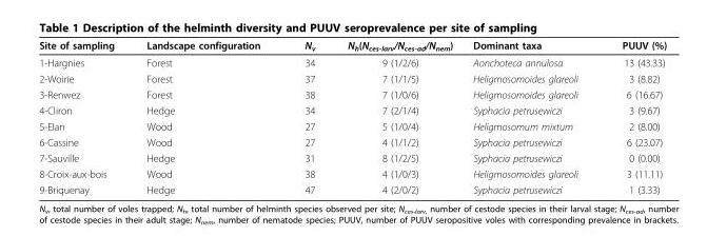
<table><thead><tr><td>Site of sampling</td><td>Landscape configuration</td><td>N<sub>v</sub></td><td>N<sub>h</sub>(N<sub>ces-larv</sub>/N<sub>ces-ad</sub>/N<sub>nem</sub>)</td><td>Dominant taxa</td><td>PUUV (%)</td></tr></thead><tbody><tr><td>1-Hargnies</td><td>Forest</td><td>34</td><td>9 (1/2/6)</td><td>Aonchoteca annulosa</td><td>13 (43.33)</td></tr><tr><td>2-Woirie</td><td>Forest</td><td>37</td><td>7 (1/1/5)</td><td>Heligmosomoides glareoli</td><td>3 (8.82)</td></tr><tr><td>3-Renwez</td><td>Forest</td><td>38</td><td>7 (1/0/6)</td><td>Heligmosomoides glareoli</td><td>6 (16.67)</td></tr><tr><td>4-Cliron</td><td>Hedge</td><td>34</td><td>7 (2/1/4)</td><td>Syphacia petrusewiczi</td><td>3 (9.67)</td></tr><tr><td>5-Elan</td><td>Wood</td><td>27</td><td>5 (1/0/4)</td><td>Heligmosomum mixtum</td><td>2 (8.00)</td></tr><tr><td>6-Cassine</td><td>Wood</td><td>27</td><td>4 (1/1/2)</td><td>Syphacia petrusewiczi</td><td>6 (23.07)</td></tr><tr><td>7-Sauville</td><td>Hedge</td><td>31</td><td>8 (1/2/5)</td><td>Syphacia petrusewiczi</td><td>0 (0.00)</td></tr><tr><td>8-Croix-aux-bois</td><td>Wood</td><td>38</td><td>4 (1/0/3)</td><td>Heligmosomoides glareoli</td><td>3 (11.11)</td></tr><tr><td>9-Briquenay</td><td>Hedge</td><td>47</td><td>4 (2/0/2)</td><td>Syphacia petrusewiczi</td><td>1 (3.33)</td></tr></tbody></table>